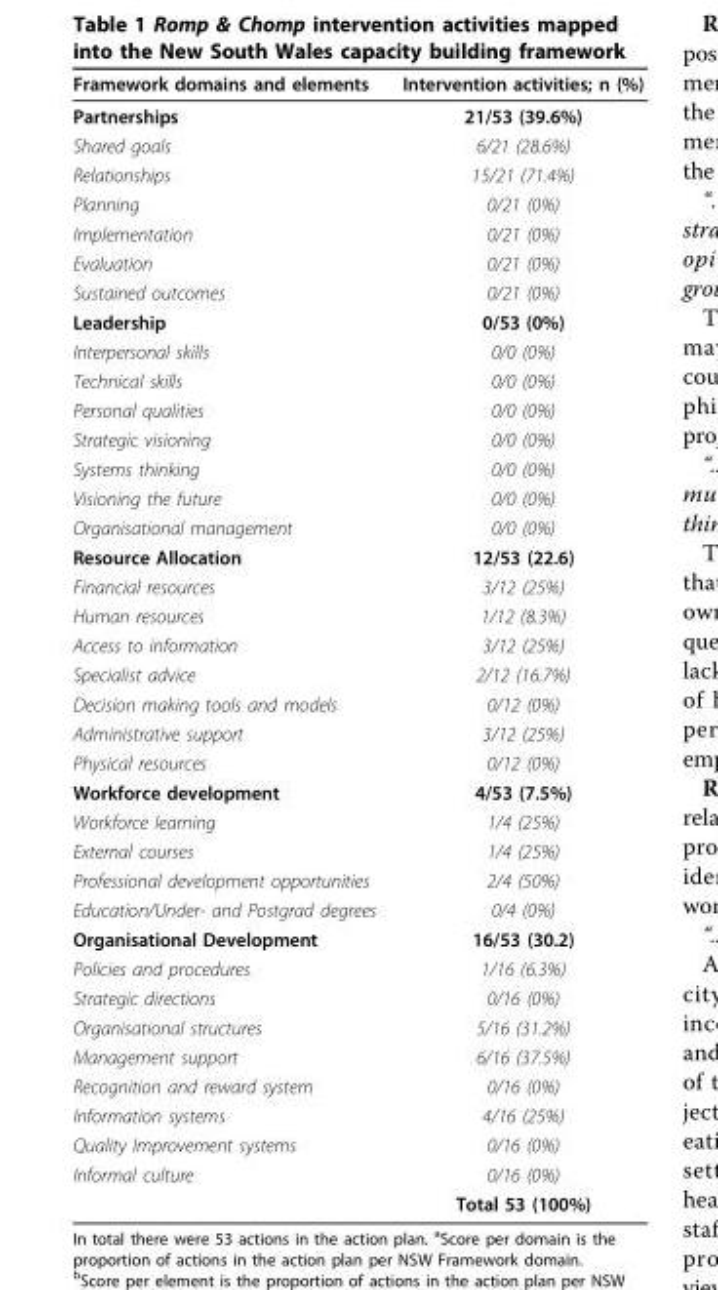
<table><thead><tr><td>Framework domains and elements</td><td>Intervention activities; n (%)</td></tr></thead><tbody><tr><td>Partnerships</td><td>21/53 (39.6%)</td></tr><tr><td>Shared goals</td><td>6/21 (28.6%)</td></tr><tr><td>Relationships</td><td>15/21 (71.4%)</td></tr><tr><td>Planning</td><td>0/21 (0%)</td></tr><tr><td>Implementation</td><td>0/21 (0%)</td></tr><tr><td>Evaluation</td><td>0/21 (0%)</td></tr><tr><td>Sustained outcomes</td><td>0/21 (0%)</td></tr><tr><td>Leadership</td><td>0/53 (0%)</td></tr><tr><td>Interpersonal skills</td><td>0/0 (0%)</td></tr><tr><td>Technical skills</td><td>0/0 (0%)</td></tr><tr><td>Personal qualities</td><td>0/0 (0%)</td></tr><tr><td>Strategic visioning</td><td>0/0 (0%)</td></tr><tr><td>Systems thinking</td><td>0/0 (0%)</td></tr><tr><td>Visioning the future</td><td>0/0 (0%)</td></tr><tr><td>Organisational management</td><td>0/0 (0%)</td></tr><tr><td>Resource Allocation</td><td>12/53 (22.6)</td></tr><tr><td>Financial resources</td><td>3/12 (25%)</td></tr><tr><td>Human resources</td><td>1/12 (8.3%)</td></tr><tr><td>Access to information</td><td>3/12 (25%)</td></tr><tr><td>Specialist advice</td><td>2/12 (16.7%)</td></tr><tr><td>Decision making tools and models</td><td>0/12 (0%)</td></tr><tr><td>Administrative support</td><td>3/12 (25%)</td></tr><tr><td>Physical resources</td><td>0/12 (0%)</td></tr><tr><td>Workforce development</td><td>4/53 (7.5%)</td></tr><tr><td>Workforce learning</td><td>1/4 (25%)</td></tr><tr><td>External courses</td><td>1/4 (25%)</td></tr><tr><td>Professional development opportunities</td><td>2/4 (50%)</td></tr><tr><td>Education/Under- and Postgrad degrees</td><td>0/4 (0%)</td></tr><tr><td>Organisational Development</td><td>16/53 (30.2)</td></tr><tr><td>Policies and procedures</td><td>1/16 (6.3%)</td></tr><tr><td>Strategic directions</td><td>0/16 (0%)</td></tr><tr><td>Organisational structures</td><td>5/16 (31.2%)</td></tr><tr><td>Management support</td><td>6/16 (37.5%)</td></tr><tr><td>Recognition and reward system</td><td>0/16 (0%)</td></tr><tr><td>Information systems</td><td>4/16 (25%)</td></tr><tr><td>Quality Improvement systems</td><td>0/16 (0%)</td></tr><tr><td rowspan="2">Informal culture</td><td>0/16 (0%)</td></tr><tr><td>Total 53 (100%)</td></tr></tbody></table>